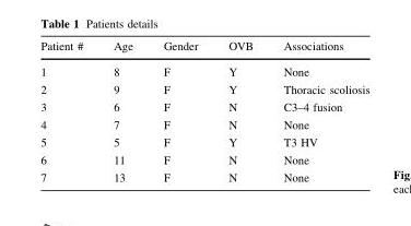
<table><thead><tr><td>Patient #</td><td>Age</td><td>Gender</td><td>OVB</td><td>Associations</td></tr></thead><tbody><tr><td>1</td><td>8</td><td>F</td><td>Y</td><td>None</td></tr><tr><td>2</td><td>9</td><td>F</td><td>Y</td><td>Thoracic scoliosis</td></tr><tr><td>3</td><td>6</td><td>F</td><td>N</td><td>C3–4 fusion</td></tr><tr><td>4</td><td>7</td><td>F</td><td>N</td><td>None</td></tr><tr><td>5</td><td>5</td><td>F</td><td>Y</td><td>T3 HV</td></tr><tr><td>6</td><td>11</td><td>F</td><td>N</td><td>None</td></tr><tr><td>7</td><td>13</td><td>F</td><td>N</td><td>None</td></tr></tbody></table>